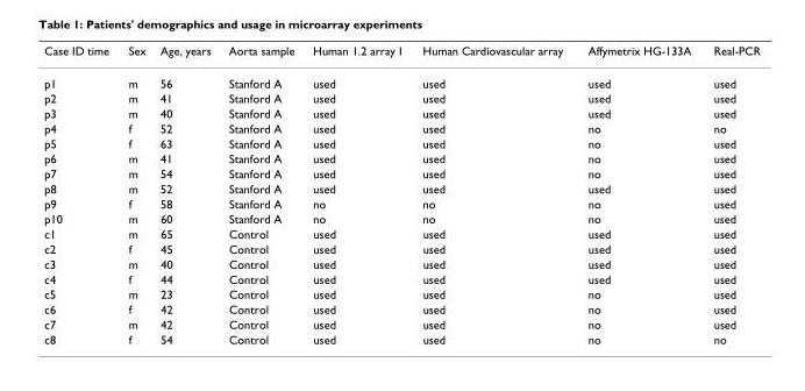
<table><thead><tr><td>Case ID time</td><td>Sex</td><td>Age, years</td><td>Aorta sample</td><td>Human 1.2 array I</td><td>Human Cardiovascular array</td><td>Affymetrix HG-133A</td><td>Real-PCR</td></tr></thead><tbody><tr><td>p1</td><td>m</td><td>56</td><td>Stanford A</td><td>used</td><td>used</td><td>used</td><td>used</td></tr><tr><td>p2</td><td>m</td><td>41</td><td>Stanford A</td><td>used</td><td>used</td><td>used</td><td>used</td></tr><tr><td>p3</td><td>m</td><td>40</td><td>Stanford A</td><td>used</td><td>used</td><td>used</td><td>used</td></tr><tr><td>p4</td><td>f</td><td>52</td><td>Stanford A</td><td>used</td><td>used</td><td>no</td><td>no</td></tr><tr><td>p5</td><td>f</td><td>63</td><td>Stanford A</td><td>used</td><td>used</td><td>no</td><td>used</td></tr><tr><td>p6</td><td>m</td><td>41</td><td>Stanford A</td><td>used</td><td>used</td><td>no</td><td>used</td></tr><tr><td>p7</td><td>m</td><td>54</td><td>Stanford A</td><td>used</td><td>used</td><td>no</td><td>used</td></tr><tr><td>p8</td><td>m</td><td>52</td><td>Stanford A</td><td>used</td><td>used</td><td>used</td><td>used</td></tr><tr><td>p9</td><td>f</td><td>58</td><td>Stanford A</td><td>no</td><td>no</td><td>no</td><td>used</td></tr><tr><td>p10</td><td>m</td><td>60</td><td>Stanford A</td><td>no</td><td>no</td><td>no</td><td>used</td></tr><tr><td>c1</td><td>m</td><td>65</td><td>Control</td><td>used</td><td>used</td><td>used</td><td>used</td></tr><tr><td>c2</td><td>f</td><td>45</td><td>Control</td><td>used</td><td>used</td><td>used</td><td>used</td></tr><tr><td>c3</td><td>m</td><td>40</td><td>Control</td><td>used</td><td>used</td><td>used</td><td>used</td></tr><tr><td>c4</td><td>f</td><td>44</td><td>Control</td><td>used</td><td>used</td><td>used</td><td>used</td></tr><tr><td>c5</td><td>m</td><td>23</td><td>Control</td><td>used</td><td>used</td><td>no</td><td>used</td></tr><tr><td>c6</td><td>f</td><td>42</td><td>Control</td><td>used</td><td>used</td><td>no</td><td>used</td></tr><tr><td>c7</td><td>m</td><td>42</td><td>Control</td><td>used</td><td>used</td><td>no</td><td>used</td></tr><tr><td>c8</td><td>f</td><td>54</td><td>Control</td><td>used</td><td>used</td><td>no</td><td>no</td></tr></tbody></table>